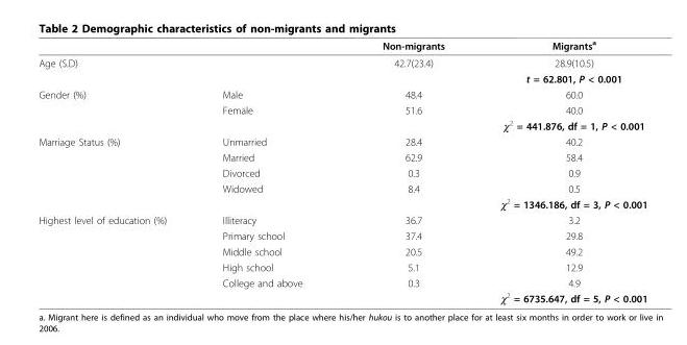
<table><thead><tr><td></td><td></td><td>Non-migrants</td><td>Migrants<sup>a</sup></td></tr></thead><tbody><tr><td rowspan="2">Age (S.D)</td><td></td><td>42.7(23.4)</td><td>28.9(10.5)</td></tr><tr><td></td><td></td><td>t = 62.801, P &lt; 0.001</td></tr><tr><td rowspan="3">Gender (%)</td><td>Male</td><td>48.4</td><td>60.0</td></tr><tr><td>Female</td><td>51.6</td><td>40.0</td></tr><tr><td></td><td></td><td>χ<sup>2</sup> = 441.876, df = 1, P &lt; 0.001</td></tr><tr><td rowspan="5">Marriage Status (%)</td><td>Unmarried</td><td>28.4</td><td>40.2</td></tr><tr><td>Married</td><td>62.9</td><td>58.4</td></tr><tr><td>Divorced</td><td>0.3</td><td>0.9</td></tr><tr><td>Widowed</td><td>8.4</td><td>0.5</td></tr><tr><td></td><td></td><td>χ<sup>2</sup> = 1346.186, df = 3, P &lt; 0.001</td></tr><tr><td rowspan="6">Highest level of education (%)</td><td>Illiteracy</td><td>36.7</td><td>3.2</td></tr><tr><td>Primary school</td><td>37.4</td><td>29.8</td></tr><tr><td>Middle school</td><td>20.5</td><td>49.2</td></tr><tr><td>High school</td><td>5.1</td><td>12.9</td></tr><tr><td>College and above</td><td>0.3</td><td>4.9</td></tr><tr><td></td><td></td><td>χ<sup>2</sup> = 6735.647, df = 5, P &lt; 0.001</td></tr></tbody></table>